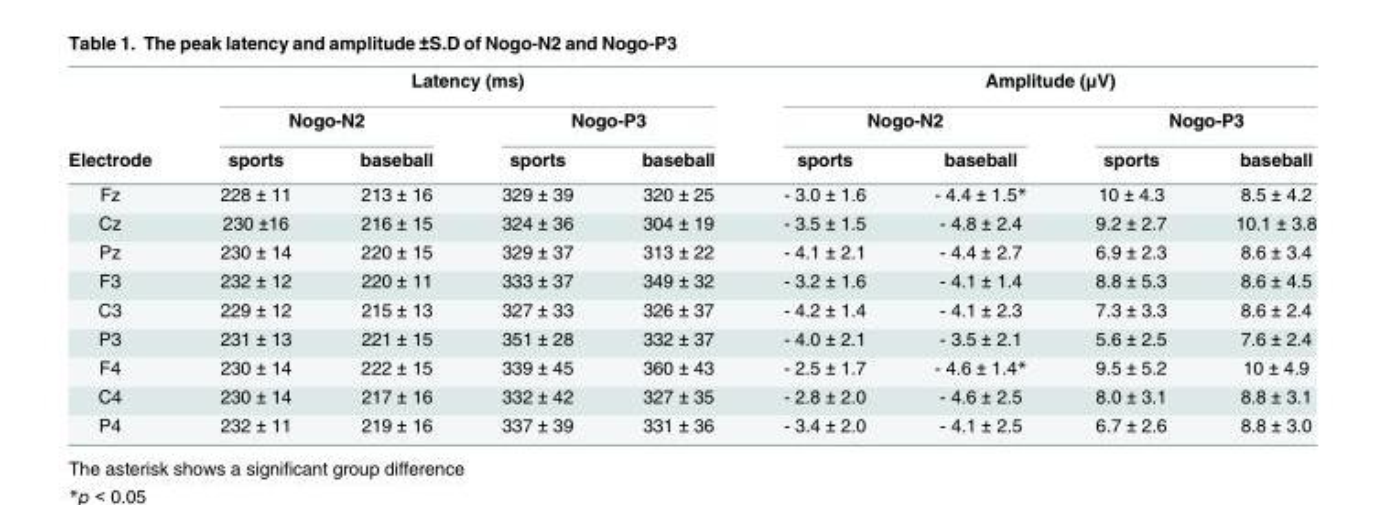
<table><thead><tr><td rowspan="3">Electrode</td><td colspan="4">Latency (ms)</td><td colspan="4">Amplitude (μV)</td></tr><tr><td colspan="2">Nogo-N2</td><td colspan="2">Nogo-P3</td><td colspan="2">Nogo-N2</td><td colspan="2">Nogo-P3</td></tr><tr><td>sports</td><td>baseball</td><td>sports</td><td>baseball</td><td>sports</td><td>baseball</td><td>sports</td><td>baseball</td></tr></thead><tbody><tr><td>Fz</td><td>228 ± 11</td><td>213 ± 16</td><td>329 ± 39</td><td>320 ± 25</td><td>- 3.0 ± 1.6</td><td>- 4.4 ± 1.5*</td><td>10 ± 4.3</td><td>8.5 ± 4.2</td></tr><tr><td>Cz</td><td>230 ±16</td><td>216 ± 15</td><td>324 ± 36</td><td>304 ± 19</td><td>- 3.5 ± 1.5</td><td>- 4.8 ± 2.4</td><td>9.2 ± 2.7</td><td>10.1 ± 3.8</td></tr><tr><td>Pz</td><td>230 ± 14</td><td>220 ± 15</td><td>329 ± 37</td><td>313 ± 22</td><td>- 4.1 ± 2.1</td><td>- 4.4 ± 2.7</td><td>6.9 ± 2.3</td><td>8.6 ± 3.4</td></tr><tr><td>F3</td><td>232 ± 12</td><td>220 ± 11</td><td>333 ± 37</td><td>349 ± 32</td><td>- 3.2 ± 1.6</td><td>- 4.1 ± 1.4</td><td>8.8 ± 5.3</td><td>8.6 ± 4.5</td></tr><tr><td>C3</td><td>229 ± 12</td><td>215 ± 13</td><td>327 ± 33</td><td>326 ± 37</td><td>- 4.2 ± 1.4</td><td>- 4.1 ± 2.3</td><td>7.3 ± 3.3</td><td>8.6 ± 2.4</td></tr><tr><td>P3</td><td>231 ± 13</td><td>221 ± 15</td><td>351 ± 28</td><td>332 ± 37</td><td>- 4.0 ± 2.1</td><td>- 3.5 ± 2.1</td><td>5.6 ± 2.5</td><td>7.6 ± 2.4</td></tr><tr><td>F4</td><td>230 ± 14</td><td>222 ± 15</td><td>339 ± 45</td><td>360 ± 43</td><td>- 2.5 ± 1.7</td><td>- 4.6 ± 1.4*</td><td>9.5 ± 5.2</td><td>10 ± 4.9</td></tr><tr><td>C4</td><td>230 ± 14</td><td>217 ± 16</td><td>332 ± 42</td><td>327 ± 35</td><td>- 2.8 ± 2.0</td><td>- 4.6 ± 2.5</td><td>8.0 ± 3.1</td><td>8.8 ± 3.1</td></tr><tr><td>P4</td><td>232 ± 11</td><td>219 ± 16</td><td>337 ± 39</td><td>331 ± 36</td><td>- 3.4 ± 2.0</td><td>- 4.1 ± 2.5</td><td>6.7 ± 2.6</td><td>8.8 ± 3.0</td></tr></tbody></table>